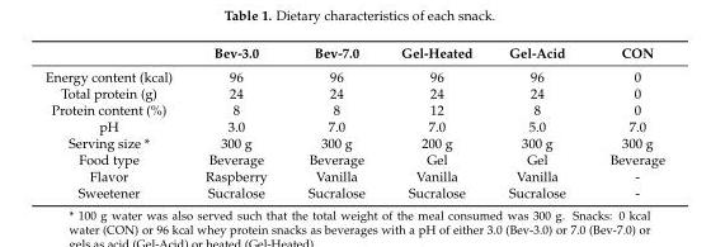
<table><thead><tr><td></td><td>Bev-3.0</td><td>Bev-7.0</td><td>Gel-Heated</td><td>Gel-Acid</td><td>CON</td></tr></thead><tbody><tr><td>Energy content (kcal)</td><td>96</td><td>96</td><td>96</td><td>96</td><td>0</td></tr><tr><td>Total protein (g)</td><td>24</td><td>24</td><td>24</td><td>24</td><td>0</td></tr><tr><td>Protein content (%)</td><td>8</td><td>8</td><td>12</td><td>8</td><td>0</td></tr><tr><td>pH</td><td>3.0</td><td>7.0</td><td>7.0</td><td>5.0</td><td>7.0</td></tr><tr><td>Serving size *</td><td>300 g</td><td>300 g</td><td>200 g</td><td>300 g</td><td>300 g</td></tr><tr><td>Food type</td><td>Beverage</td><td>Beverage</td><td>Gel</td><td>Gel</td><td>Beverage</td></tr><tr><td>Flavor</td><td>Raspberry</td><td>Vanilla</td><td>Vanilla</td><td>Vanilla</td><td>-</td></tr><tr><td>Sweetener</td><td>Sucralose</td><td>Sucralose</td><td>Sucralose</td><td>Sucralose</td><td>-</td></tr></tbody></table>